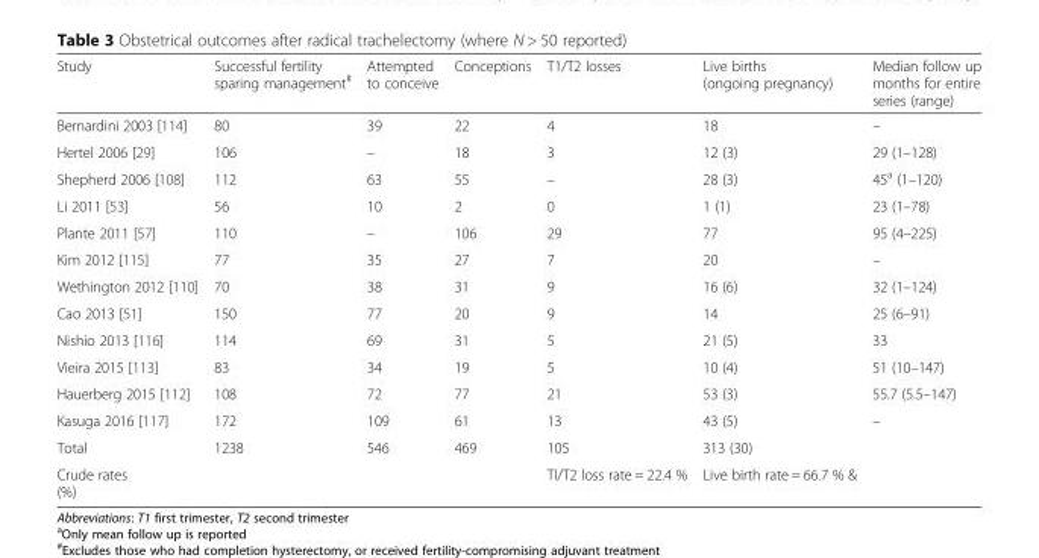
<table><thead><tr><td>Study</td><td>Successful fertility sparing management<sup>#</sup></td><td>Attempted to conceive</td><td>Conceptions</td><td>T1/T2 losses</td><td>Live births (ongoing pregnancy)</td><td>Median follow up months for entire series (range)</td></tr></thead><tbody><tr><td>Bernardini 2003 [114]</td><td>80</td><td>39</td><td>22</td><td>4</td><td>18</td><td>–</td></tr><tr><td>Hertel 2006 [29]</td><td>106</td><td>–</td><td>18</td><td>3</td><td>12 (3)</td><td>29 (1–128)</td></tr><tr><td>Shepherd 2006 [108]</td><td>112</td><td>63</td><td>55</td><td>–</td><td>28 (3)</td><td>45<sup>a</sup> (1–120)</td></tr><tr><td>Li 2011 [53]</td><td>56</td><td>10</td><td>2</td><td>0</td><td>1 (1)</td><td>23 (1–78)</td></tr><tr><td>Plante 2011 [57]</td><td>110</td><td>–</td><td>106</td><td>29</td><td>77</td><td>95 (4–225)</td></tr><tr><td>Kim 2012 [115]</td><td>77</td><td>35</td><td>27</td><td>7</td><td>20</td><td>–</td></tr><tr><td>Wethington 2012 [110]</td><td>70</td><td>38</td><td>31</td><td>9</td><td>16 (6)</td><td>32 (1–124)</td></tr><tr><td>Cao 2013 [51]</td><td>150</td><td>77</td><td>20</td><td>9</td><td>14</td><td>25 (6–91)</td></tr><tr><td>Nishio 2013 [116]</td><td>114</td><td>69</td><td>31</td><td>5</td><td>21 (5)</td><td>33</td></tr><tr><td>Vieira 2015 [113]</td><td>83</td><td>34</td><td>19</td><td>5</td><td>10 (4)</td><td>51 (10–147)</td></tr><tr><td>Hauerberg 2015 [112]</td><td>108</td><td>72</td><td>77</td><td>21</td><td>53 (3)</td><td>55.7 (5.5–147)</td></tr><tr><td>Kasuga 2016 [117]</td><td>172</td><td>109</td><td>61</td><td>13</td><td>43 (5)</td><td>–</td></tr><tr><td>Total</td><td>1238</td><td>546</td><td>469</td><td>105</td><td>313 (30)</td><td></td></tr><tr><td>Crude rates (%)</td><td></td><td></td><td></td><td>TI/T2 loss rate = 22.4 %</td><td>Live birth rate = 66.7 % &amp;</td><td></td></tr></tbody></table>